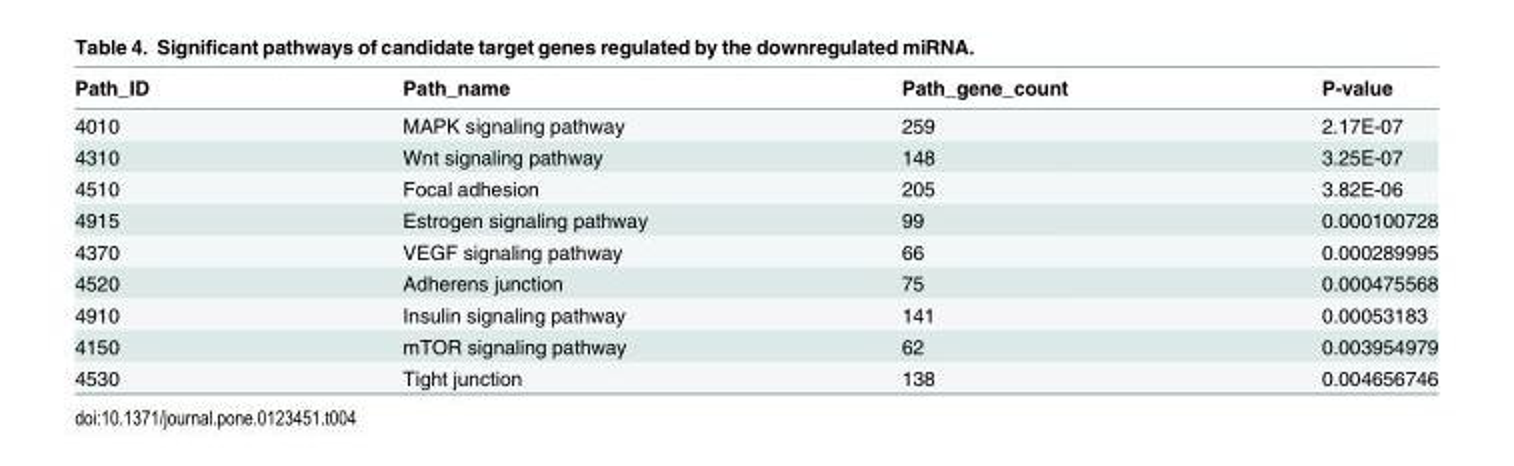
<table><thead><tr><td>Path_ID</td><td>Path_name</td><td>Path_gene_count</td><td>P-value</td></tr></thead><tbody><tr><td>4010</td><td>MAPK signaling pathway</td><td>259</td><td>2.17E-07</td></tr><tr><td>4310</td><td>Wnt signaling pathway</td><td>148</td><td>3.25E-07</td></tr><tr><td>4510</td><td>Focal adhesion</td><td>205</td><td>3.82E-06</td></tr><tr><td>4915</td><td>Estrogen signaling pathway</td><td>99</td><td>0.000100728</td></tr><tr><td>4370</td><td>VEGF signaling pathway</td><td>66</td><td>0.000289995</td></tr><tr><td>4520</td><td>Adherens junction</td><td>75</td><td>0.000475568</td></tr><tr><td>4910</td><td>Insulin signaling pathway</td><td>141</td><td>0.00053183</td></tr><tr><td>4150</td><td>mTOR signaling pathway</td><td>62</td><td>0.003954979</td></tr><tr><td>4530</td><td>Tight junction</td><td>138</td><td>0.004656746</td></tr></tbody></table>